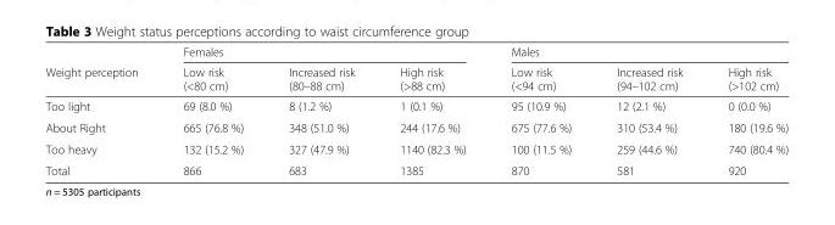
<table><thead><tr><td rowspan="2">Weight perception</td><td colspan="3">Females</td><td colspan="3">Males</td></tr><tr><td>Low risk (&lt;80 cm)</td><td>Increased risk (80–88 cm)</td><td>High risk (&gt;88 cm)</td><td>Low risk (&lt;94 cm)</td><td>Increased risk (94–102 cm)</td><td>High risk (&gt;102 cm)</td></tr></thead><tbody><tr><td>Too light</td><td>69 (8.0 %)</td><td>8 (1.2 %)</td><td>1 (0.1 %)</td><td>95 (10.9 %)</td><td>12 (2.1 %)</td><td>0 (0.0 %)</td></tr><tr><td>About Right</td><td>665 (76.8 %)</td><td>348 (51.0 %)</td><td>244 (17.6 %)</td><td>675 (77.6 %)</td><td>310 (53.4 %)</td><td>180 (19.6 %)</td></tr><tr><td>Too heavy</td><td>132 (15.2 %)</td><td>327 (47.9 %)</td><td>1140 (82.3 %)</td><td>100 (11.5 %)</td><td>259 (44.6 %)</td><td>740 (80.4 %)</td></tr><tr><td>Total</td><td>866</td><td>683</td><td>1385</td><td>870</td><td>581</td><td>920</td></tr></tbody></table>